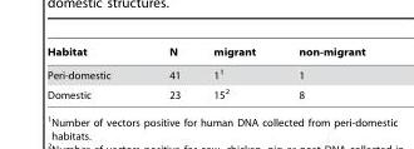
<table><thead><tr><td>Habitat</td><td>N</td><td>migrant</td><td>non-migrant</td></tr></thead><tbody><tr><td>Peri-domestic</td><td>41</td><td>1<sup>1</sup></td><td>1</td></tr><tr><td>Domestic</td><td>23</td><td>15<sup>2</sup></td><td>8</td></tr></tbody></table>